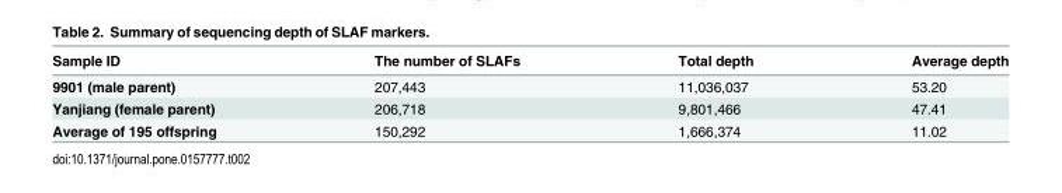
<table><thead><tr><td>Sample ID</td><td>The number of SLAFs</td><td>Total depth</td><td>Average depth</td></tr></thead><tbody><tr><td>9901 (male parent)</td><td>207,443</td><td>11,036,037</td><td>53.20</td></tr><tr><td>Yanjiang (female parent)</td><td>206,718</td><td>9,801,466</td><td>47.41</td></tr><tr><td>Average of 195 offspring</td><td>150,292</td><td>1,666,374</td><td>11.02</td></tr></tbody></table>